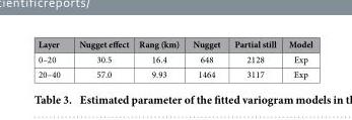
<table><thead><tr><td>Layer</td><td>Nugget effect</td><td>Rang (km)</td><td>Nugget</td><td>Partial still</td><td>Model</td></tr></thead><tbody><tr><td>0–20</td><td>30.5</td><td>16.4</td><td>648</td><td>2128</td><td>Exp</td></tr><tr><td>20–40</td><td>57.0</td><td>9.93</td><td>1464</td><td>3117</td><td>Exp</td></tr></tbody></table>